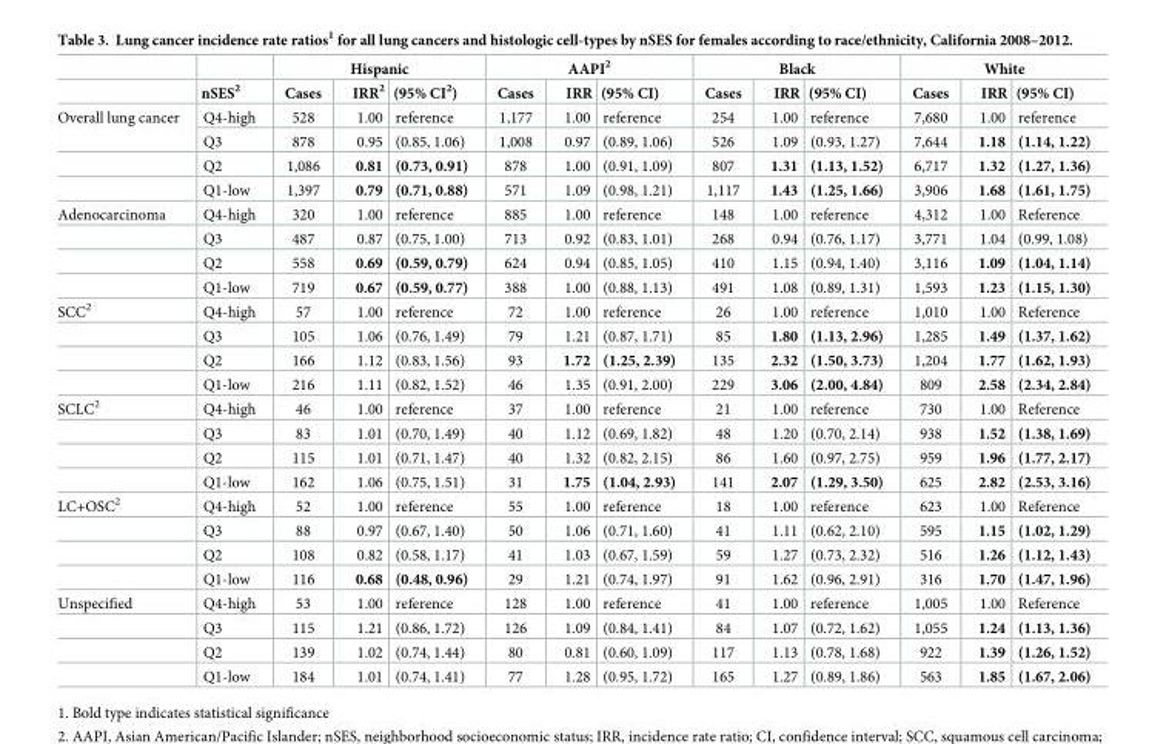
<table><thead><tr><td rowspan="2"></td><td rowspan="2">nSES<sup>2</sup></td><td colspan="3">Hispanic</td><td colspan="3">AAPI<sup>2</sup></td><td colspan="3">Black</td><td colspan="3">White</td></tr><tr><td>Cases</td><td>IRR<sup>2</sup></td><td>(95% CI<sup>2</sup>)</td><td>Cases</td><td>IRR</td><td>(95% CI)</td><td>Cases</td><td>IRR</td><td>(95% CI)</td><td>Cases</td><td>IRR</td><td>(95% CI)</td></tr></thead><tbody><tr><td rowspan="4">Overall lung cancer</td><td>Q4-high</td><td>528</td><td>1.00</td><td>reference</td><td>1,177</td><td>1.00</td><td>reference</td><td>254</td><td>1.00</td><td>reference</td><td>7,680</td><td>1.00</td><td>reference</td></tr><tr><td>Q3</td><td>878</td><td>0.95</td><td>(0.85, 1.06)</td><td>1,008</td><td>0.97</td><td>(0.89, 1.06)</td><td>526</td><td>1.09</td><td>(0.93, 1.27)</td><td>7,644</td><td>1.18</td><td>(1.14, 1.22)</td></tr><tr><td>Q2</td><td>1,086</td><td>0.81</td><td>(0.73, 0.91)</td><td>878</td><td>1.00</td><td>(0.91, 1.09)</td><td>807</td><td>1.31</td><td>(1.13, 1.52)</td><td>6,717</td><td>1.32</td><td>(1.27, 1.36)</td></tr><tr><td>Q1-low</td><td>1,397</td><td>0.79</td><td>(0.71, 0.88)</td><td>571</td><td>1.09</td><td>(0.98, 1.21)</td><td>1,117</td><td>1.43</td><td>(1.25, 1.66)</td><td>3,906</td><td>1.68</td><td>(1.61, 1.75)</td></tr><tr><td rowspan="4">Adenocarcinoma</td><td>Q4-high</td><td>320</td><td>1.00</td><td>reference</td><td>885</td><td>1.00</td><td>reference</td><td>148</td><td>1.00</td><td>reference</td><td>4,312</td><td>1.00</td><td>Reference</td></tr><tr><td>Q3</td><td>487</td><td>0.87</td><td>(0.75, 1.00)</td><td>713</td><td>0.92</td><td>(0.83, 1.01)</td><td>268</td><td>0.94</td><td>(0.76, 1.17)</td><td>3,771</td><td>1.04</td><td>(0.99, 1.08)</td></tr><tr><td>Q2</td><td>558</td><td>0.69</td><td>(0.59, 0.79)</td><td>624</td><td>0.94</td><td>(0.85, 1.05)</td><td>410</td><td>1.15</td><td>(0.94, 1.40)</td><td>3,116</td><td>1.09</td><td>(1.04, 1.14)</td></tr><tr><td>Q1-low</td><td>719</td><td>0.67</td><td>(0.59, 0.77)</td><td>388</td><td>1.00</td><td>(0.88, 1.13)</td><td>491</td><td>1.08</td><td>(0.89, 1.31)</td><td>1,593</td><td>1.23</td><td>(1.15, 1.30)</td></tr><tr><td rowspan="4">SCC<sup>2</sup></td><td>Q4-high</td><td>57</td><td>1.00</td><td>reference</td><td>72</td><td>1.00</td><td>reference</td><td>26</td><td>1.00</td><td>reference</td><td>1,010</td><td>1.00</td><td>Reference</td></tr><tr><td>Q3</td><td>105</td><td>1.06</td><td>(0.76, 1.49)</td><td>79</td><td>1.21</td><td>(0.87, 1.71)</td><td>85</td><td>1.80</td><td>(1.13, 2.96)</td><td>1,285</td><td>1.49</td><td>(1.37, 1.62)</td></tr><tr><td>Q2</td><td>166</td><td>1.12</td><td>(0.83, 1.56)</td><td>93</td><td>1.72</td><td>(1.25, 2.39)</td><td>135</td><td>2.32</td><td>(1.50, 3.73)</td><td>1,204</td><td>1.77</td><td>(1.62, 1.93)</td></tr><tr><td>Q1-low</td><td>216</td><td>1.11</td><td>(0.82, 1.52)</td><td>46</td><td>1.35</td><td>(0.91, 2.00)</td><td>229</td><td>3.06</td><td>(2.00, 4.84)</td><td>809</td><td>2.58</td><td>(2.34, 2.84)</td></tr><tr><td rowspan="4">SCLC<sup>2</sup></td><td>Q4-high</td><td>46</td><td>1.00</td><td>reference</td><td>37</td><td>1.00</td><td>reference</td><td>21</td><td>1.00</td><td>reference</td><td>730</td><td>1.00</td><td>Reference</td></tr><tr><td>Q3</td><td>83</td><td>1.01</td><td>(0.70, 1.49)</td><td>40</td><td>1.12</td><td>(0.69, 1.82)</td><td>48</td><td>1.20</td><td>(0.70, 2.14)</td><td>938</td><td>1.52</td><td>(1.38, 1.69)</td></tr><tr><td>Q2</td><td>115</td><td>1.01</td><td>(0.71, 1.47)</td><td>40</td><td>1.32</td><td>(0.82, 2.15)</td><td>86</td><td>1.60</td><td>(0.97, 2.75)</td><td>959</td><td>1.96</td><td>(1.77, 2.17)</td></tr><tr><td>Q1-low</td><td>162</td><td>1.06</td><td>(0.75, 1.51)</td><td>31</td><td>1.75</td><td>(1.04, 2.93)</td><td>141</td><td>2.07</td><td>(1.29, 3.50)</td><td>625</td><td>2.82</td><td>(2.53, 3.16)</td></tr><tr><td rowspan="4">LC+OSC<sup>2</sup></td><td>Q4-high</td><td>52</td><td>1.00</td><td>reference</td><td>55</td><td>1.00</td><td>reference</td><td>18</td><td>1.00</td><td>reference</td><td>623</td><td>1.00</td><td>Reference</td></tr><tr><td>Q3</td><td>88</td><td>0.97</td><td>(0.67, 1.40)</td><td>50</td><td>1.06</td><td>(0.71, 1.60)</td><td>41</td><td>1.11</td><td>(0.62, 2.10)</td><td>595</td><td>1.15</td><td>(1.02, 1.29)</td></tr><tr><td>Q2</td><td>108</td><td>0.82</td><td>(0.58, 1.17)</td><td>41</td><td>1.03</td><td>(0.67, 1.59)</td><td>59</td><td>1.27</td><td>(0.73, 2.32)</td><td>516</td><td>1.26</td><td>(1.12, 1.43)</td></tr><tr><td>Q1-low</td><td>116</td><td>0.68</td><td>(0.48, 0.96)</td><td>29</td><td>1.21</td><td>(0.74, 1.97)</td><td>91</td><td>1.62</td><td>(0.96, 2.91)</td><td>316</td><td>1.70</td><td>(1.47, 1.96)</td></tr><tr><td rowspan="4">Unspecified</td><td>Q4-high</td><td>53</td><td>1.00</td><td>reference</td><td>128</td><td>1.00</td><td>reference</td><td>41</td><td>1.00</td><td>reference</td><td>1,005</td><td>1.00</td><td>Reference</td></tr><tr><td>Q3</td><td>115</td><td>1.21</td><td>(0.86, 1.72)</td><td>126</td><td>1.09</td><td>(0.84, 1.41)</td><td>84</td><td>1.07</td><td>(0.72, 1.62)</td><td>1,055</td><td>1.24</td><td>(1.13, 1.36)</td></tr><tr><td>Q2</td><td>139</td><td>1.02</td><td>(0.74, 1.44)</td><td>80</td><td>0.81</td><td>(0.60, 1.09)</td><td>117</td><td>1.13</td><td>(0.78, 1.68)</td><td>922</td><td>1.39</td><td>(1.26, 1.52)</td></tr><tr><td>Q1-low</td><td>184</td><td>1.01</td><td>(0.74, 1.41)</td><td>77</td><td>1.28</td><td>(0.95, 1.72)</td><td>165</td><td>1.27</td><td>(0.89, 1.86)</td><td>563</td><td>1.85</td><td>(1.67, 2.06)</td></tr></tbody></table>